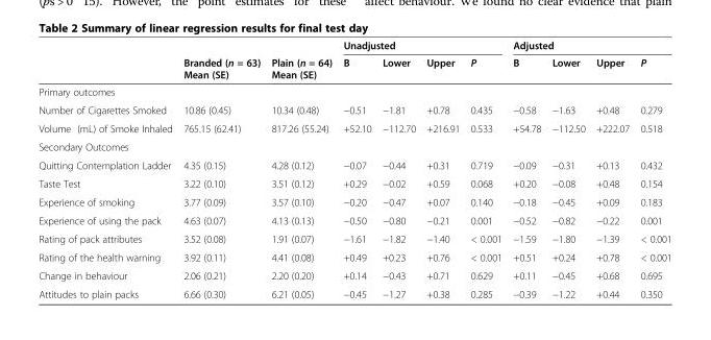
<table><thead><tr><td rowspan="2"></td><td rowspan="2">Branded (n = 63) Mean (SE)</td><td rowspan="2">Plain (n = 64) Mean (SE)</td><td colspan="4">Unadjusted</td><td colspan="4">Adjusted</td></tr><tr><td>B</td><td>Lower</td><td>Upper</td><td>P</td><td>B</td><td>Lower</td><td>Upper</td><td>P</td></tr></thead><tbody><tr><td colspan="11">Primary outcomes</td></tr><tr><td>Number of Cigarettes Smoked</td><td>10.86 (0.45)</td><td>10.34 (0.48)</td><td>−0.51</td><td>−1.81</td><td>+0.78</td><td>0.435</td><td>−0.58</td><td>−1.63</td><td>+0.48</td><td>0.279</td></tr><tr><td>Volume (mL) of Smoke Inhaled</td><td>765.15 (62.41)</td><td>817.26 (55.24)</td><td>+52.10</td><td>−112.70</td><td>+216.91</td><td>0.533</td><td>+54.78</td><td>−112.50</td><td>+222.07</td><td>0.518</td></tr><tr><td colspan="11">Secondary Outcomes</td></tr><tr><td>Quitting Contemplation Ladder</td><td>4.35 (0.15)</td><td>4.28 (0.12)</td><td>−0.07</td><td>−0.44</td><td>+0.31</td><td>0.719</td><td>−0.09</td><td>−0.31</td><td>+0.13</td><td>0.432</td></tr><tr><td>Taste Test</td><td>3.22 (0.10)</td><td>3.51 (0.12)</td><td>+0.29</td><td>−0.02</td><td>+0.59</td><td>0.068</td><td>+0.20</td><td>−0.08</td><td>+0.48</td><td>0.154</td></tr><tr><td>Experience of smoking</td><td>3.77 (0.09)</td><td>3.57 (0.10)</td><td>−0.20</td><td>−0.47</td><td>+0.07</td><td>0.140</td><td>−0.18</td><td>−0.45</td><td>+0.09</td><td>0.183</td></tr><tr><td>Experience of using the pack</td><td>4.63 (0.07)</td><td>4.13 (0.13)</td><td>−0.50</td><td>−0.80</td><td>−0.21</td><td>0.001</td><td>−0.52</td><td>−0.82</td><td>−0.22</td><td>0.001</td></tr><tr><td>Rating of pack attributes</td><td>3.52 (0.08)</td><td>1.91 (0.07)</td><td>−1.61</td><td>−1.82</td><td>−1.40</td><td>&lt; 0.001</td><td>−1.59</td><td>−1.80</td><td>−1.39</td><td>&lt; 0.001</td></tr><tr><td>Rating of the health warning</td><td>3.92 (0.11)</td><td>4.41 (0.08)</td><td>+0.49</td><td>+0.23</td><td>+0.76</td><td>&lt; 0.001</td><td>+0.51</td><td>+0.24</td><td>+0.78</td><td>&lt; 0.001</td></tr><tr><td>Change in behaviour</td><td>2.06 (0.21)</td><td>2.20 (0.20)</td><td>+0.14</td><td>−0.43</td><td>+0.71</td><td>0.629</td><td>+0.11</td><td>−0.45</td><td>+0.68</td><td>0.695</td></tr><tr><td>Attitudes to plain packs</td><td>6.66 (0.30)</td><td>6.21 (0.05)</td><td>−0.45</td><td>−1.27</td><td>+0.38</td><td>0.285</td><td>−0.39</td><td>−1.22</td><td>+0.44</td><td>0.350</td></tr></tbody></table>